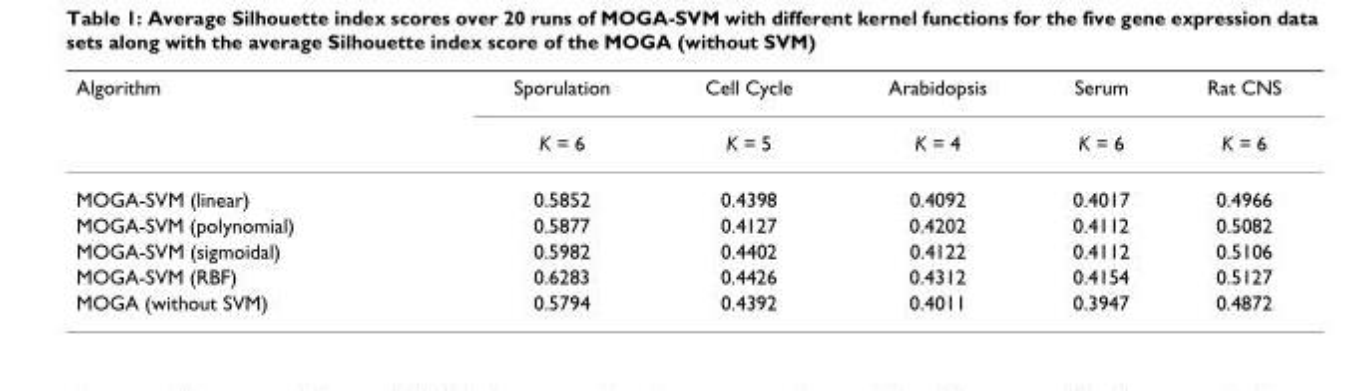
<table><thead><tr><td rowspan="2">Algorithm</td><td rowspan="2">Sporulation K = 6</td><td rowspan="2">Cell Cycle K = 5</td><td rowspan="2">Arabidopsis K = 4</td><td rowspan="2">Serum K = 6</td><td rowspan="2">Rat CNS K = 6</td></tr><tr></tr></thead><tbody><tr><td>MOGA-SVM (linear)</td><td>0.5852</td><td>0.4398</td><td>0.4092</td><td>0.4017</td><td>0.4966</td></tr><tr><td>MOGA-SVM (polynomial)</td><td>0.5877</td><td>0.4127</td><td>0.4202</td><td>0.4112</td><td>0.5082</td></tr><tr><td>MOGA-SVM (sigmoidal)</td><td>0.5982</td><td>0.4402</td><td>0.4122</td><td>0.4112</td><td>0.5106</td></tr><tr><td>MOGA-SVM (RBF)</td><td>0.6283</td><td>0.4426</td><td>0.4312</td><td>0.4154</td><td>0.5127</td></tr><tr><td>MOGA (without SVM)</td><td>0.5794</td><td>0.4392</td><td>0.4011</td><td>0.3947</td><td>0.4872</td></tr></tbody></table>